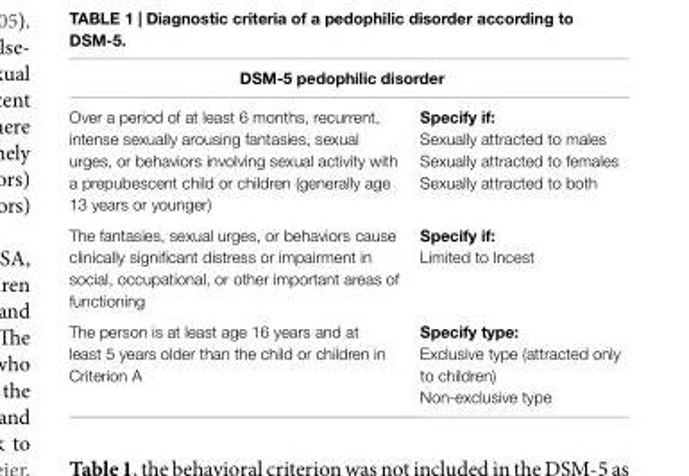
<table><thead><tr><td colspan="2">DSM-5 pedophilic disorder</td></tr><tr><td>Over a period of at least 6 months, recurrent, intense sexually arousing fantasies, sexual urges, or behaviors involving sexual activity with a prepubescent child or children (generally age 13 years or younger)</td><td>Specify if: Sexually attracted to males Sexually attracted to females Sexually attracted to both</td></tr></thead><tbody><tr><td>The fantasies, sexual urges, or behaviors cause clinically significant distress or impairment in social, occupational, or other important areas of functioning</td><td>Specify if: Limited to Incest</td></tr><tr><td>The person is at least age 16 years and at least 5 years older than the child or children in Criterion A</td><td>Specify type: Exclusive type (attracted only to children) Non-exclusive type</td></tr></tbody></table>